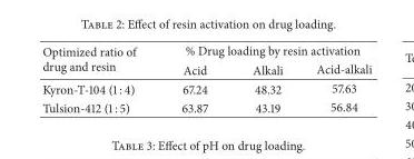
<table><thead><tr><td rowspan="2">Optimized ratio of drug and resin</td><td colspan="3">% Drug loading by resin activation</td></tr><tr><td>Acid</td><td>Alkali</td><td>Acid-alkali</td></tr></thead><tbody><tr><td>Kyron-T-104 (1 : 4)</td><td>67.24</td><td>48.32</td><td>57.63</td></tr><tr><td>Tulsion-412 (1 : 5)</td><td>63.87</td><td>43.19</td><td>56.84</td></tr></tbody></table>